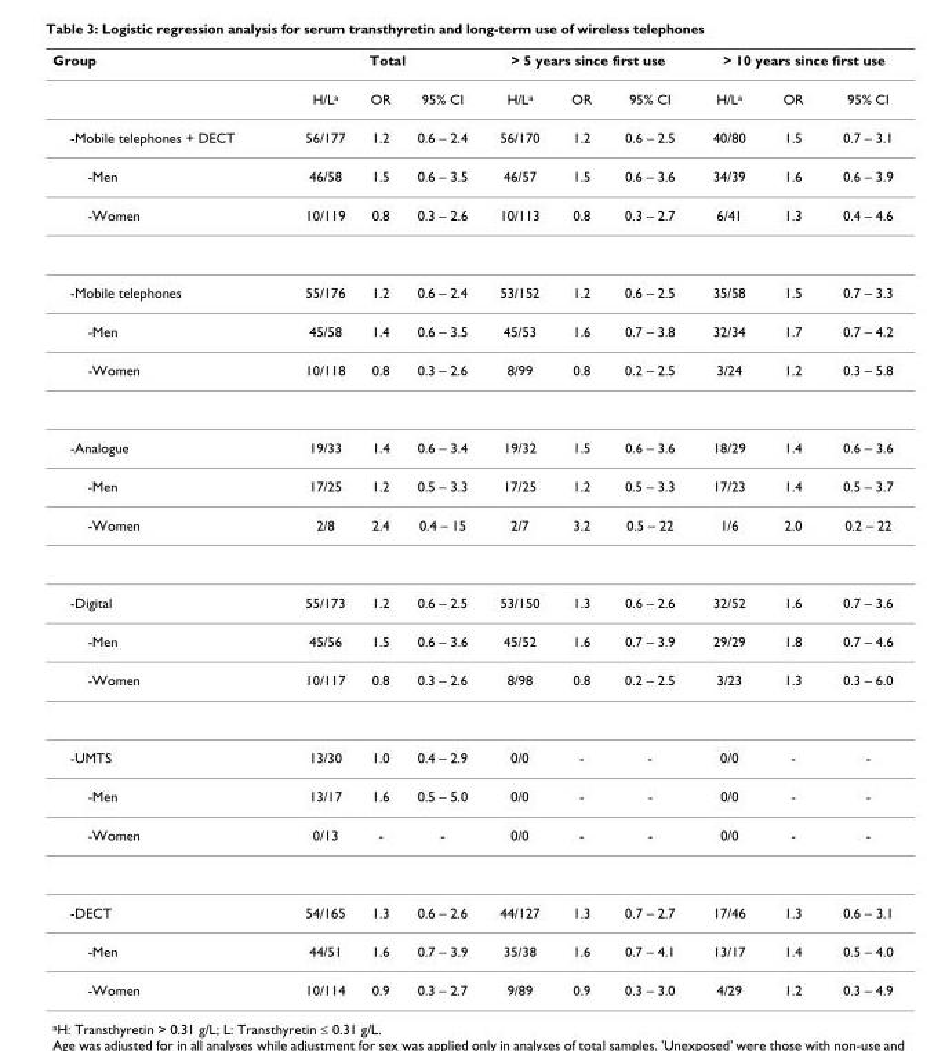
<table><thead><tr><td rowspan="2">Group</td><td colspan="3">Total</td><td colspan="3">&gt; 5 years since first use</td><td colspan="3">&gt; 10 years since first use</td></tr><tr><td>H/La</td><td>OR</td><td>95% CI</td><td>H/La</td><td>OR</td><td>95% CI</td><td>H/La</td><td>OR</td><td>95% CI</td></tr></thead><tbody><tr><td>-Mobile telephones + DECT</td><td>56/177</td><td>1.2</td><td>0.6 – 2.4</td><td>56/170</td><td>1.2</td><td>0.6 – 2.5</td><td>40/80</td><td>1.5</td><td>0.7 – 3.1</td></tr><tr><td>-Men</td><td>46/58</td><td>1.5</td><td>0.6 – 3.5</td><td>46/57</td><td>1.5</td><td>0.6 – 3.6</td><td>34/39</td><td>1.6</td><td>0.6 – 3.9</td></tr><tr><td>-Women</td><td>10/119</td><td>0.8</td><td>0.3 – 2.6</td><td>10/113</td><td>0.8</td><td>0.3 – 2.7</td><td>6/41</td><td>1.3</td><td>0.4 – 4.6</td></tr><tr><td>-Mobile telephones</td><td>55/176</td><td>1.2</td><td>0.6 – 2.4</td><td>53/152</td><td>1.2</td><td>0.6 – 2.5</td><td>35/58</td><td>1.5</td><td>0.7 – 3.3</td></tr><tr><td>-Men</td><td>45/58</td><td>1.4</td><td>0.6 – 3.5</td><td>45/53</td><td>1.6</td><td>0.7 – 3.8</td><td>32/34</td><td>1.7</td><td>0.7 – 4.2</td></tr><tr><td>-Women</td><td>10/118</td><td>0.8</td><td>0.3 – 2.6</td><td>8/99</td><td>0.8</td><td>0.2 – 2.5</td><td>3/24</td><td>1.2</td><td>0.3 – 5.8</td></tr><tr><td>-Analogue</td><td>19/33</td><td>1.4</td><td>0.6 – 3.4</td><td>19/32</td><td>1.5</td><td>0.6 – 3.6</td><td>18/29</td><td>1.4</td><td>0.6 – 3.6</td></tr><tr><td>-Men</td><td>17/25</td><td>1.2</td><td>0.5 – 3.3</td><td>17/25</td><td>1.2</td><td>0.5 – 3.3</td><td>17/23</td><td>1.4</td><td>0.5 – 3.7</td></tr><tr><td>-Women</td><td>2/8</td><td>2.4</td><td>0.4 – 15</td><td>2/7</td><td>3.2</td><td>0.5 – 22</td><td>1/6</td><td>2.0</td><td>0.2 – 22</td></tr><tr><td>-Digital</td><td>55/173</td><td>1.2</td><td>0.6 – 2.5</td><td>53/150</td><td>1.3</td><td>0.6 – 2.6</td><td>32/52</td><td>1.6</td><td>0.7 – 3.6</td></tr><tr><td>-Men</td><td>45/56</td><td>1.5</td><td>0.6 – 3.6</td><td>45/52</td><td>1.6</td><td>0.7 – 3.9</td><td>29/29</td><td>1.8</td><td>0.7 – 4.6</td></tr><tr><td>-Women</td><td>10/117</td><td>0.8</td><td>0.3 – 2.6</td><td>8/98</td><td>0.8</td><td>0.2 – 2.5</td><td>3/23</td><td>1.3</td><td>0.3 – 6.0</td></tr><tr><td>-UMTS</td><td>13/30</td><td>1.0</td><td>0.4 – 2.9</td><td>0/0</td><td>-</td><td>-</td><td>0/0</td><td>-</td><td>-</td></tr><tr><td>-Men</td><td>13/17</td><td>1.6</td><td>0.5 – 5.0</td><td>0/0</td><td>-</td><td>-</td><td>0/0</td><td>-</td><td>-</td></tr><tr><td>-Women</td><td>0/13</td><td>-</td><td>-</td><td>0/0</td><td>-</td><td>-</td><td>0/0</td><td>-</td><td>-</td></tr><tr><td>-DECT</td><td>54/165</td><td>1.3</td><td>0.6 – 2.6</td><td>44/127</td><td>1.3</td><td>0.7 – 2.7</td><td>17/46</td><td>1.3</td><td>0.6 – 3.1</td></tr><tr><td>-Men</td><td>44/51</td><td>1.6</td><td>0.7 – 3.9</td><td>35/38</td><td>1.6</td><td>0.7 – 4.1</td><td>13/17</td><td>1.4</td><td>0.5 – 4.0</td></tr><tr><td>-Women</td><td>10/114</td><td>0.9</td><td>0.3 – 2.7</td><td>9/89</td><td>0.9</td><td>0.3 – 3.0</td><td>4/29</td><td>1.2</td><td>0.3 – 4.9</td></tr></tbody></table>